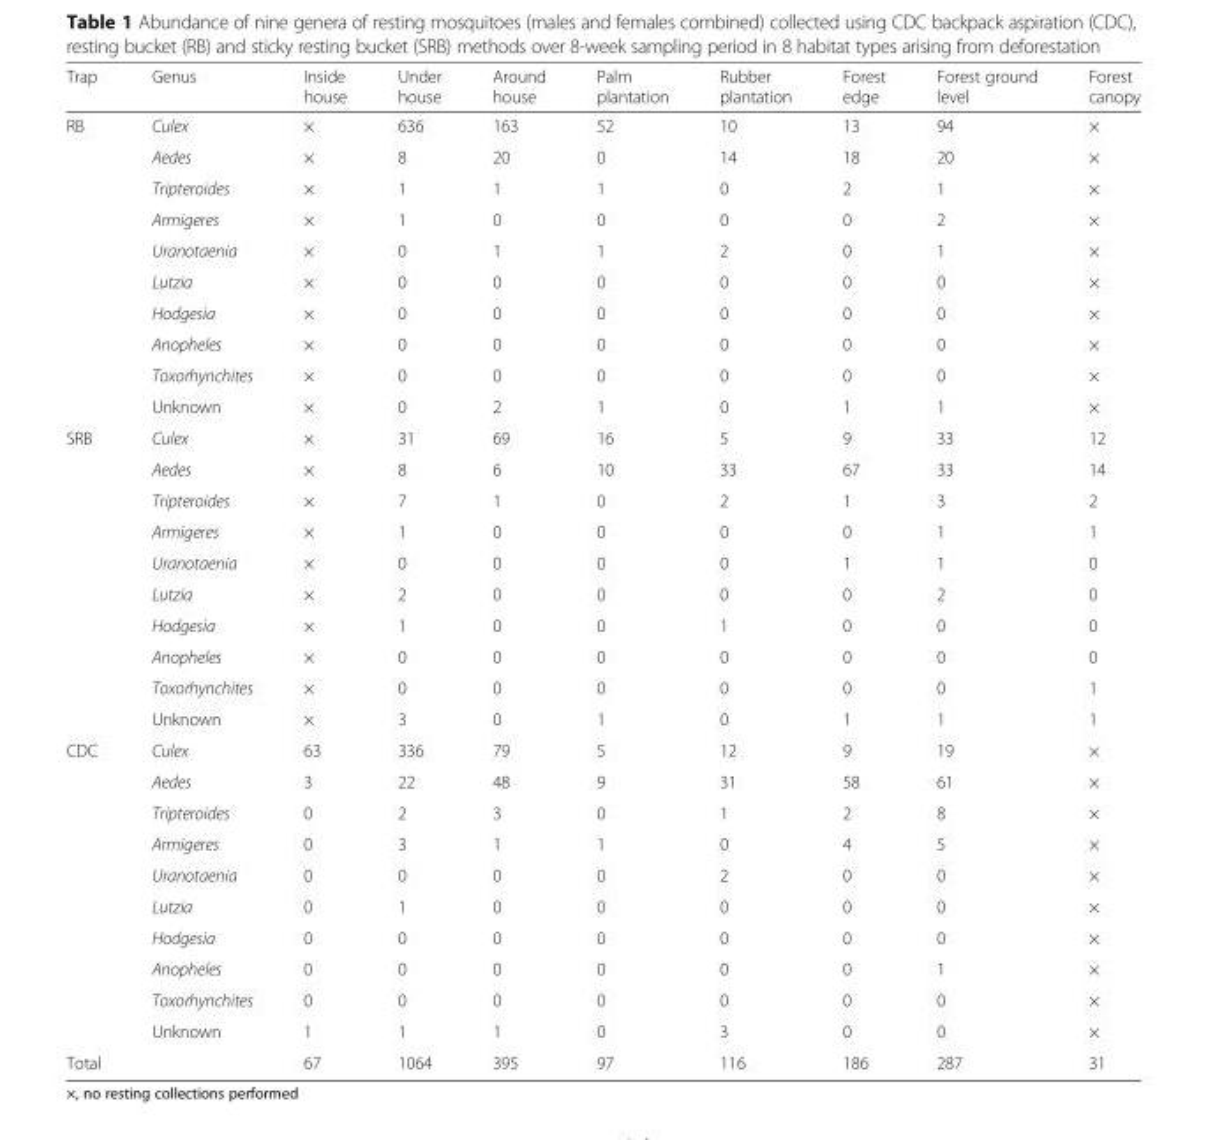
<table><thead><tr><td>Trap</td><td>Genus</td><td>Inside house</td><td>Under house</td><td>Around house</td><td>Palm plantation</td><td>Rubber plantation</td><td>Forest edge</td><td>Forest ground level</td><td>Forest canopy</td></tr></thead><tbody><tr><td rowspan="10">RB</td><td>Culex</td><td>×</td><td>636</td><td>163</td><td>52</td><td>10</td><td>13</td><td>94</td><td>×</td></tr><tr><td>Aedes</td><td>×</td><td>8</td><td>20</td><td>0</td><td>14</td><td>18</td><td>20</td><td>×</td></tr><tr><td>Tripteroides</td><td>×</td><td>1</td><td>1</td><td>1</td><td>0</td><td>2</td><td>1</td><td>×</td></tr><tr><td>Armigeres</td><td>×</td><td>1</td><td>0</td><td>0</td><td>0</td><td>0</td><td>2</td><td>×</td></tr><tr><td>Uranotaenia</td><td>×</td><td>0</td><td>1</td><td>1</td><td>2</td><td>0</td><td>1</td><td>×</td></tr><tr><td>Lutzia</td><td>×</td><td>0</td><td>0</td><td>0</td><td>0</td><td>0</td><td>0</td><td>×</td></tr><tr><td>Hodgesia</td><td>×</td><td>0</td><td>0</td><td>0</td><td>0</td><td>0</td><td>0</td><td>×</td></tr><tr><td>Anopheles</td><td>×</td><td>0</td><td>0</td><td>0</td><td>0</td><td>0</td><td>0</td><td>×</td></tr><tr><td>Toxorhynchites</td><td>×</td><td>0</td><td>0</td><td>0</td><td>0</td><td>0</td><td>0</td><td>×</td></tr><tr><td>Unknown</td><td>×</td><td>0</td><td>2</td><td>1</td><td>0</td><td>1</td><td>1</td><td>×</td></tr><tr><td rowspan="10">SRB</td><td>Culex</td><td>×</td><td>31</td><td>69</td><td>16</td><td>5</td><td>9</td><td>33</td><td>12</td></tr><tr><td>Aedes</td><td>×</td><td>8</td><td>6</td><td>10</td><td>33</td><td>67</td><td>33</td><td>14</td></tr><tr><td>Tripteroides</td><td>×</td><td>7</td><td>1</td><td>0</td><td>2</td><td>1</td><td>3</td><td>2</td></tr><tr><td>Armigeres</td><td>×</td><td>1</td><td>0</td><td>0</td><td>0</td><td>0</td><td>1</td><td>1</td></tr><tr><td>Uranotaenia</td><td>×</td><td>0</td><td>0</td><td>0</td><td>0</td><td>1</td><td>1</td><td>0</td></tr><tr><td>Lutzia</td><td>×</td><td>2</td><td>0</td><td>0</td><td>0</td><td>0</td><td>2</td><td>0</td></tr><tr><td>Hodgesia</td><td>×</td><td>1</td><td>0</td><td>0</td><td>1</td><td>0</td><td>0</td><td>0</td></tr><tr><td>Anopheles</td><td>×</td><td>0</td><td>0</td><td>0</td><td>0</td><td>0</td><td>0</td><td>0</td></tr><tr><td>Toxorhynchites</td><td>×</td><td>0</td><td>0</td><td>0</td><td>0</td><td>0</td><td>0</td><td>1</td></tr><tr><td>Unknown</td><td>×</td><td>3</td><td>0</td><td>1</td><td>0</td><td>1</td><td>1</td><td>1</td></tr><tr><td rowspan="10">CDC</td><td>Culex</td><td>63</td><td>336</td><td>79</td><td>5</td><td>12</td><td>9</td><td>19</td><td>×</td></tr><tr><td>Aedes</td><td>3</td><td>22</td><td>48</td><td>9</td><td>31</td><td>58</td><td>61</td><td>×</td></tr><tr><td>Tripteroides</td><td>0</td><td>2</td><td>3</td><td>0</td><td>1</td><td>2</td><td>8</td><td>×</td></tr><tr><td>Armigeres</td><td>0</td><td>3</td><td>1</td><td>1</td><td>0</td><td>4</td><td>5</td><td>×</td></tr><tr><td>Uranotaenia</td><td>0</td><td>0</td><td>0</td><td>0</td><td>2</td><td>0</td><td>0</td><td>×</td></tr><tr><td>Lutzia</td><td>0</td><td>1</td><td>0</td><td>0</td><td>0</td><td>0</td><td>0</td><td>×</td></tr><tr><td>Hodgesia</td><td>0</td><td>0</td><td>0</td><td>0</td><td>0</td><td>0</td><td>0</td><td>×</td></tr><tr><td>Anopheles</td><td>0</td><td>0</td><td>0</td><td>0</td><td>0</td><td>0</td><td>1</td><td>×</td></tr><tr><td>Toxorhynchites</td><td>0</td><td>0</td><td>0</td><td>0</td><td>0</td><td>0</td><td>0</td><td>×</td></tr><tr><td>Unknown</td><td>1</td><td>1</td><td>1</td><td>0</td><td>3</td><td>0</td><td>0</td><td>×</td></tr><tr><td>Total</td><td></td><td>67</td><td>1064</td><td>395</td><td>97</td><td>116</td><td>186</td><td>287</td><td>31</td></tr></tbody></table>